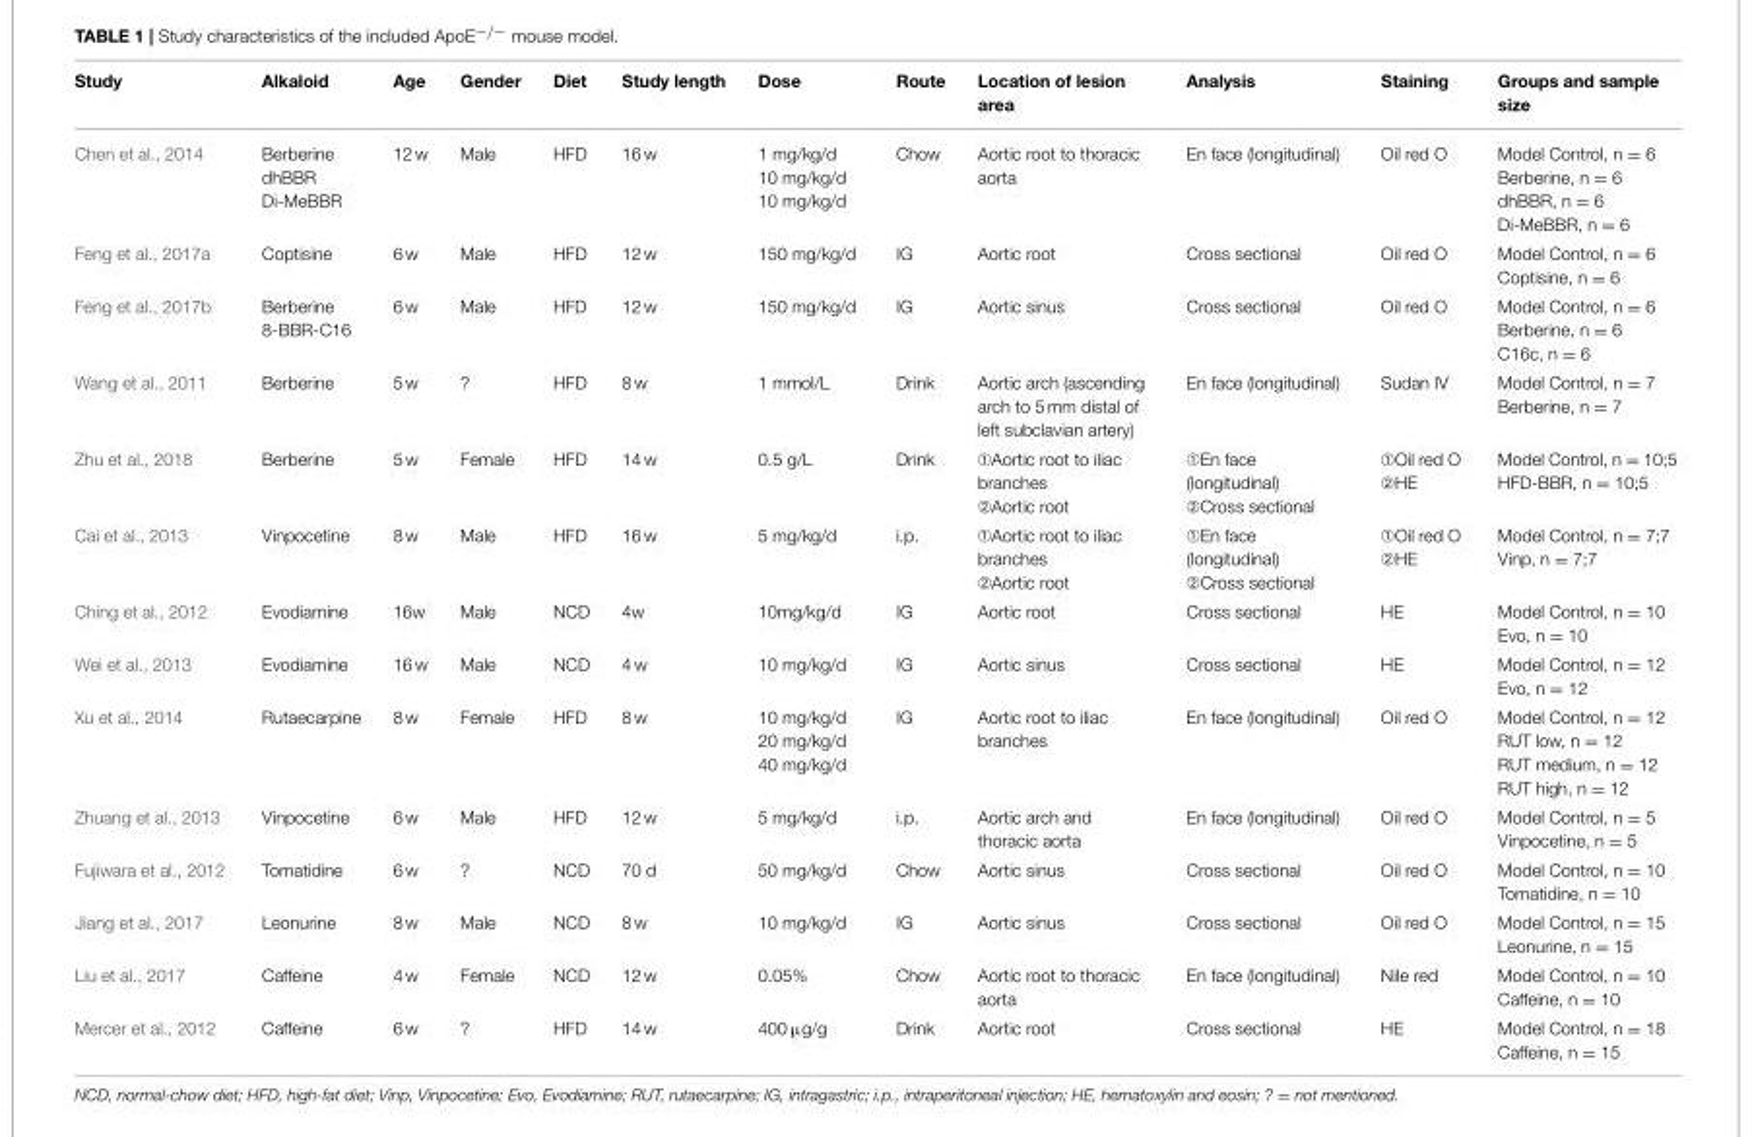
<table><thead><tr><td>Study</td><td>Alkaloid</td><td>Age</td><td>Gender</td><td>Diet</td><td>Study length</td><td>Dose</td><td>Route</td><td>Location of lesion area</td><td>Analysis</td><td>Staining</td><td>Groups and sample size</td></tr></thead><tbody><tr><td>Chen et al., 2014</td><td>Berberine dhBBR Di-MeBBR</td><td>12 w</td><td>Male</td><td>HFD</td><td>16 w</td><td>1 mg/kg/d 10 mg/kg/d 10 mg/kg/d</td><td>Chow</td><td>Aortic root to thoracic aorta</td><td>En face (longitudinal)</td><td>Oil red O</td><td>Model Control, n = 6 Berberine, n = 6 dhBBR, n = 6 Di-MeBBR, n = 6</td></tr><tr><td>Feng et al., 2017a</td><td>Coptisine</td><td>6 w</td><td>Male</td><td>HFD</td><td>12 w</td><td>150 mg/kg/d</td><td>IG</td><td>Aortic root</td><td>Cross sectional</td><td>Oil red O</td><td>Model Control, n = 6 Coptisine, n = 6</td></tr><tr><td>Feng et al., 2017b</td><td>Berberine 8-BBR-C16</td><td>6 w</td><td>Male</td><td>HFD</td><td>12 w</td><td>150 mg/kg/d</td><td>IG</td><td>Aortic sinus</td><td>Cross sectional</td><td>Oil red O</td><td>Model Control, n = 6 Berberine, n = 6 C16c, n = 6</td></tr><tr><td>Wang et al., 2011</td><td>Berberine</td><td>5 w</td><td>?</td><td>HFD</td><td>8 w</td><td>1 mmol/L</td><td>Drink</td><td>Aortic arch (ascending arch to 5 mm distal of left subclavian artery)</td><td>En face (longitudinal)</td><td>Sudan IV</td><td>Model Control, n = 7 Berberine, n = 7</td></tr><tr><td>Zhu et al., 2018</td><td>Berberine</td><td>5 w</td><td>Female</td><td>HFD</td><td>14 w</td><td>0.5 g/L</td><td>Drink</td><td>Aortic root to iliac branches Aortic root</td><td>En face (longitudinal) Cross sectional</td><td>Oil red O HE</td><td>Model Control, n = 10;5 HFD-BBR, n = 10;5</td></tr><tr><td>Cai et al., 2013</td><td>Vinpocetine</td><td>8 w</td><td>Male</td><td>HFD</td><td>16 w</td><td>5 mg/kg/d</td><td>i.p.</td><td>Aortic root to iliac branches Aortic root</td><td>En face (longitudinal) Cross sectional</td><td>Oil red O HE</td><td>Model Control, n = 7;7 Vinp, n = 7;7</td></tr><tr><td>Ching et al., 2012</td><td>Evodiamine</td><td>16w</td><td>Male</td><td>NCD</td><td>4w</td><td>10mg/kg/d</td><td>IG</td><td>Aortic root</td><td>Cross sectional</td><td>HE</td><td>Model Control, n = 10 Evo, n = 10</td></tr><tr><td>Wei et al., 2013</td><td>Evodiamine</td><td>16 w</td><td>Male</td><td>NCD</td><td>4 w</td><td>10 mg/kg/d</td><td>IG</td><td>Aortic sinus</td><td>Cross sectional</td><td>HE</td><td>Model Control, n = 12 Evo, n = 12</td></tr><tr><td>Xu et al., 2014</td><td>Rutaecarpine</td><td>8 w</td><td>Female</td><td>HFD</td><td>8 w</td><td>10 mg/kg/d 20 mg/kg/d 40 mg/kg/d</td><td>IG</td><td>Aortic root to iliac branches</td><td>En face (longitudinal)</td><td>Oil red O</td><td>Model Control, n = 12 RUT low, n = 12 RUT medium, n = 12 RUT high, n = 12</td></tr><tr><td>Zhuang et al., 2013</td><td>Vinpocetine</td><td>6 w</td><td>Male</td><td>HFD</td><td>12 w</td><td>5 mg/kg/d</td><td>i.p.</td><td>Aortic arch and thoracic aorta</td><td>En face (longitudinal)</td><td>Oil red O</td><td>Model Control, n = 5 Vinpocetine, n = 5</td></tr><tr><td>Fujiwara et al., 2012</td><td>Tomatidine</td><td>6 w</td><td>?</td><td>NCD</td><td>70 d</td><td>50 mg/kg/d</td><td>Chow</td><td>Aortic sinus</td><td>Cross sectional</td><td>Oil red O</td><td>Model Control, n = 10 Tomatidine, n = 10</td></tr><tr><td>Jiang et al., 2017</td><td>Leonurine</td><td>8 w</td><td>Male</td><td>NCD</td><td>8 w</td><td>10 mg/kg/d</td><td>IG</td><td>Aortic sinus</td><td>Cross sectional</td><td>Oil red O</td><td>Model Control, n = 15 Leonurine, n = 15</td></tr><tr><td>Liu et al., 2017</td><td>Caffeine</td><td>4 w</td><td>Female</td><td>NCD</td><td>12 w</td><td>0.05%</td><td>Chow</td><td>Aortic root to thoracic aorta</td><td>En face (longitudinal)</td><td>Nile red</td><td>Model Control, n = 10 Caffeine, n = 10</td></tr><tr><td>Mercer et al., 2012</td><td>Caffeine</td><td>6 w</td><td>?</td><td>HFD</td><td>14 w</td><td>400 µg/g</td><td>Drink</td><td>Aortic root</td><td>Cross sectional</td><td>HE</td><td>Model Control, n = 18 Caffeine, n = 15</td></tr></tbody></table>